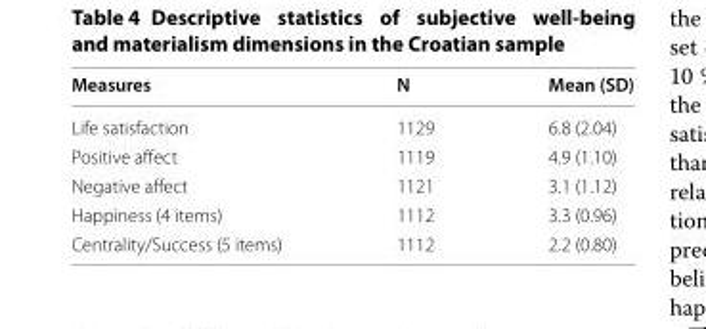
<table><thead><tr><td>Measures</td><td>N</td><td>Mean (SD)</td></tr></thead><tbody><tr><td>Life satisfaction</td><td>1129</td><td>6.8 (2.04)</td></tr><tr><td>Positive affect</td><td>1119</td><td>4.9 (1.10)</td></tr><tr><td>Negative affect</td><td>1121</td><td>3.1 (1.12)</td></tr><tr><td>Happiness (4 items)</td><td>1112</td><td>3.3 (0.96)</td></tr><tr><td>Centrality/Success (5 items)</td><td>1112</td><td>2.2 (0.80)</td></tr></tbody></table>